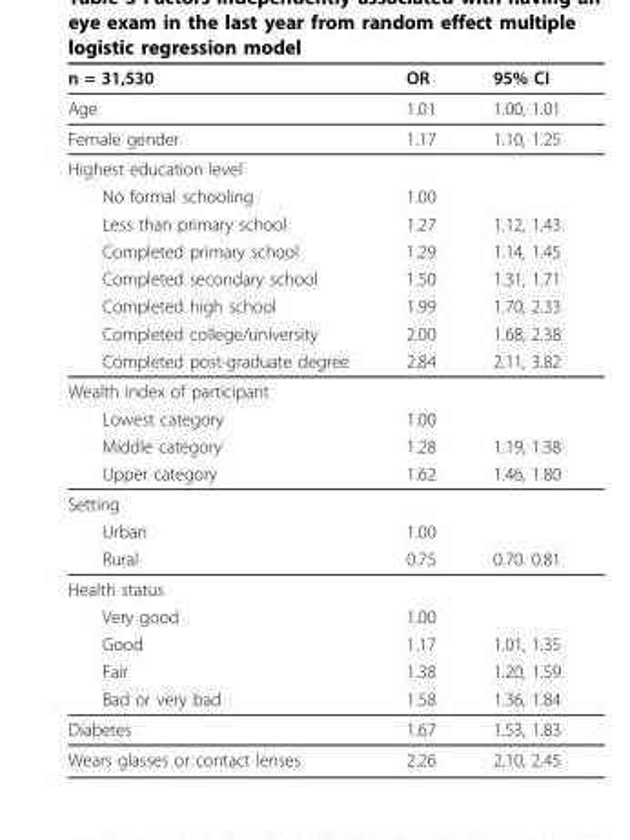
<table><thead><tr><td>n = 31,530</td><td>OR</td><td>95% CI</td></tr></thead><tbody><tr><td>Age</td><td>1.01</td><td>1.00, 1.01</td></tr><tr><td>Female gender</td><td>1.17</td><td>1.10, 1.25</td></tr><tr><td colspan="3">Highest education level</td></tr><tr><td>No formal schooling</td><td>1.00</td><td></td></tr><tr><td>Less than primary school</td><td>1.27</td><td>1.12, 1.43</td></tr><tr><td>Completed primary school</td><td>1.29</td><td>1.14, 1.45</td></tr><tr><td>Completed secondary school</td><td>1.50</td><td>1.31, 1.71</td></tr><tr><td>Completed high school</td><td>1.99</td><td>1.70, 2.33</td></tr><tr><td>Completed college/university</td><td>2.00</td><td>1.68, 2.38</td></tr><tr><td>Completed post-graduate degree</td><td>2.84</td><td>2.11, 3.82</td></tr><tr><td colspan="3">Wealth index of participant</td></tr><tr><td>Lowest category</td><td>1.00</td><td></td></tr><tr><td>Middle category</td><td>1.28</td><td>1.19, 1.38</td></tr><tr><td>Upper category</td><td>1.62</td><td>1.46, 1.80</td></tr><tr><td colspan="3">Setting</td></tr><tr><td>Urban</td><td>1.00</td><td></td></tr><tr><td>Rural</td><td>0.75</td><td>0.70. 0.81</td></tr><tr><td colspan="3">Health status</td></tr><tr><td>Very good</td><td>1.00</td><td></td></tr><tr><td>Good</td><td>1.17</td><td>1.01, 1.35</td></tr><tr><td>Fair</td><td>1.38</td><td>1.20, 1.59</td></tr><tr><td>Bad or very bad</td><td>1.58</td><td>1.36, 1.84</td></tr><tr><td>Diabetes</td><td>1.67</td><td>1.53, 1.83</td></tr><tr><td>Wears glasses or contact lenses</td><td>2.26</td><td>2.10, 2.45</td></tr></tbody></table>